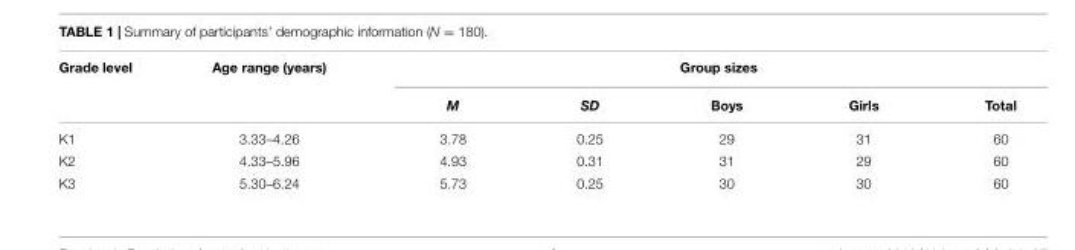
<table><thead><tr><td rowspan="2">Grade level</td><td rowspan="2">Age range (years)</td><td colspan="5">Group sizes</td></tr><tr><td>M</td><td>SD</td><td>Boys</td><td>Girls</td><td>Total</td></tr></thead><tbody><tr><td>K1</td><td>3.33–4.26</td><td>3.78</td><td>0.25</td><td>29</td><td>31</td><td>60</td></tr><tr><td>K2</td><td>4.33–5.96</td><td>4.93</td><td>0.31</td><td>31</td><td>29</td><td>60</td></tr><tr><td>K3</td><td>5.30–6.24</td><td>5.73</td><td>0.25</td><td>30</td><td>30</td><td>60</td></tr></tbody></table>